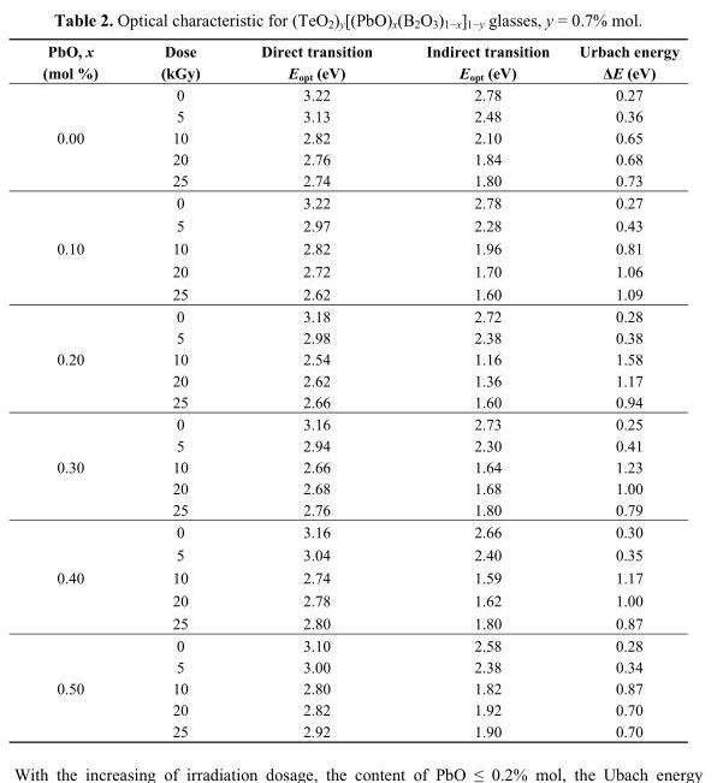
<table><thead><tr><td>PbO, x (mol %)</td><td>Dose (kGy)</td><td>Direct transition E<sub>opt</sub> (eV)</td><td>Indirect transition E<sub>opt</sub> (eV)</td><td>Urbach energy ΔE (eV)</td></tr></thead><tbody><tr><td rowspan="5">0.00</td><td>0</td><td>3.22</td><td>2.78</td><td>0.27</td></tr><tr><td>5</td><td>3.13</td><td>2.48</td><td>0.36</td></tr><tr><td>10</td><td>2.82</td><td>2.10</td><td>0.65</td></tr><tr><td>20</td><td>2.76</td><td>1.84</td><td>0.68</td></tr><tr><td>25</td><td>2.74</td><td>1.80</td><td>0.73</td></tr><tr><td rowspan="5">0.10</td><td>0</td><td>3.22</td><td>2.78</td><td>0.27</td></tr><tr><td>5</td><td>2.97</td><td>2.28</td><td>0.43</td></tr><tr><td>10</td><td>2.82</td><td>1.96</td><td>0.81</td></tr><tr><td>20</td><td>2.72</td><td>1.70</td><td>1.06</td></tr><tr><td>25</td><td>2.62</td><td>1.60</td><td>1.09</td></tr><tr><td rowspan="5">0.20</td><td>0</td><td>3.18</td><td>2.72</td><td>0.28</td></tr><tr><td>5</td><td>2.98</td><td>2.38</td><td>0.38</td></tr><tr><td>10</td><td>2.54</td><td>1.16</td><td>1.58</td></tr><tr><td>20</td><td>2.62</td><td>1.36</td><td>1.17</td></tr><tr><td>25</td><td>2.66</td><td>1.60</td><td>0.94</td></tr><tr><td rowspan="5">0.30</td><td>0</td><td>3.16</td><td>2.73</td><td>0.25</td></tr><tr><td>5</td><td>2.94</td><td>2.30</td><td>0.41</td></tr><tr><td>10</td><td>2.66</td><td>1.64</td><td>1.23</td></tr><tr><td>20</td><td>2.68</td><td>1.68</td><td>1.00</td></tr><tr><td>25</td><td>2.76</td><td>1.80</td><td>0.79</td></tr><tr><td rowspan="5">0.40</td><td>0</td><td>3.16</td><td>2.66</td><td>0.30</td></tr><tr><td>5</td><td>3.04</td><td>2.40</td><td>0.35</td></tr><tr><td>10</td><td>2.74</td><td>1.59</td><td>1.17</td></tr><tr><td>20</td><td>2.78</td><td>1.62</td><td>1.00</td></tr><tr><td>25</td><td>2.80</td><td>1.80</td><td>0.87</td></tr><tr><td rowspan="5">0.50</td><td>0</td><td>3.10</td><td>2.58</td><td>0.28</td></tr><tr><td>5</td><td>3.00</td><td>2.38</td><td>0.34</td></tr><tr><td>10</td><td>2.80</td><td>1.82</td><td>0.87</td></tr><tr><td>20</td><td>2.82</td><td>1.92</td><td>0.70</td></tr><tr><td>25</td><td>2.92</td><td>1.90</td><td>0.70</td></tr></tbody></table>